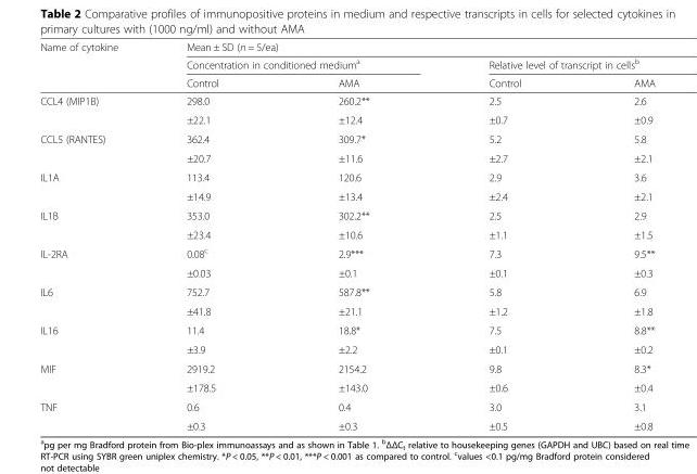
<table><thead><tr><td rowspan="3">Name of cytokine</td><td colspan="4">Mean ± SD (n = 5/ea)</td></tr><tr><td colspan="2">Concentration in conditioned medium<sup>a</sup></td><td colspan="2">Relative level of transcript in cells<sup>b</sup></td></tr><tr><td>Control</td><td>AMA</td><td>Control</td><td>AMA</td></tr></thead><tbody><tr><td rowspan="2">CCL4 (MIP1B)</td><td>298.0</td><td>260.2**</td><td>2.5</td><td>2.6</td></tr><tr><td>±22.1</td><td>±12.4</td><td>±0.7</td><td>±0.9</td></tr><tr><td rowspan="2">CCL5 (RANTES)</td><td>362.4</td><td>309.7*</td><td>5.2</td><td>5.8</td></tr><tr><td>±20.7</td><td>±11.6</td><td>±2.7</td><td>±2.1</td></tr><tr><td rowspan="2">IL1A</td><td>113.4</td><td>120.6</td><td>2.9</td><td>3.6</td></tr><tr><td>±14.9</td><td>±13.4</td><td>±2.4</td><td>±2.1</td></tr><tr><td rowspan="2">IL1B</td><td>353.0</td><td>302.2**</td><td>2.5</td><td>2.9</td></tr><tr><td>±23.4</td><td>±10.6</td><td>±1.1</td><td>±1.5</td></tr><tr><td rowspan="2">IL-2RA</td><td>0.08<sup>c</sup></td><td>2.9***</td><td>7.3</td><td>9.5**</td></tr><tr><td>±0.03</td><td>±0.1</td><td>±0.1</td><td>±0.3</td></tr><tr><td rowspan="2">IL6</td><td>752.7</td><td>587.8**</td><td>5.8</td><td>6.9</td></tr><tr><td>±41.8</td><td>±21.1</td><td>±1.2</td><td>±1.8</td></tr><tr><td rowspan="2">IL16</td><td>11.4</td><td>18.8*</td><td>7.5</td><td>8.8**</td></tr><tr><td>±3.9</td><td>±2.2</td><td>±0.1</td><td>±0.2</td></tr><tr><td rowspan="2">MIF</td><td>2919.2</td><td>2154.2</td><td>9.8</td><td>8.3*</td></tr><tr><td>±178.5</td><td>±143.0</td><td>±0.6</td><td>±0.4</td></tr><tr><td rowspan="2">TNF</td><td>0.6</td><td>0.4</td><td>3.0</td><td>3.1</td></tr><tr><td>±0.3</td><td>±0.3</td><td>±0.5</td><td>±0.8</td></tr></tbody></table>